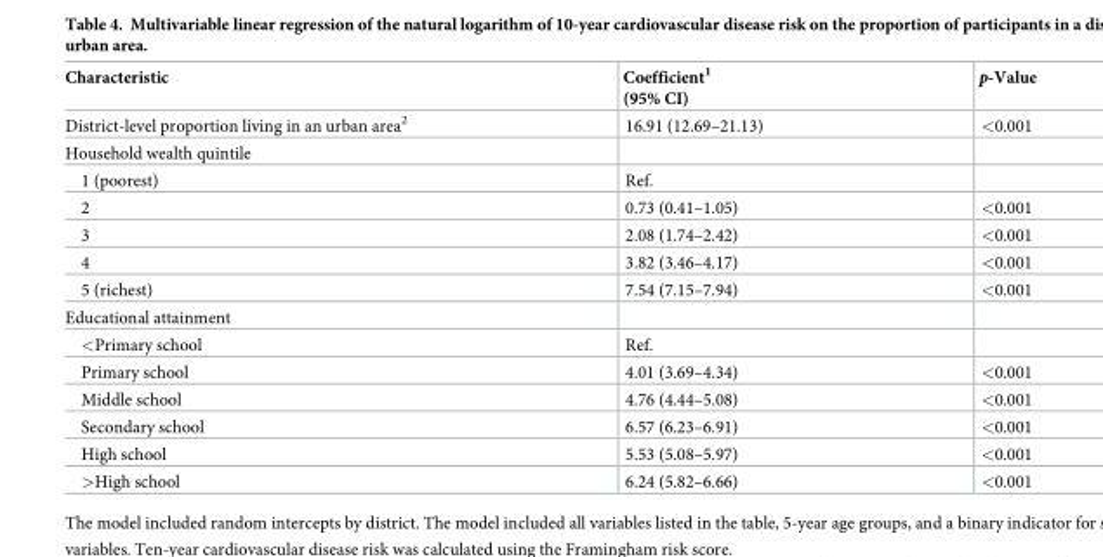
<table><thead><tr><td>Characteristic</td><td>Coefficient<sup>1</sup> (95% CI)</td><td>p-Value</td></tr></thead><tbody><tr><td>District-level proportion living in an urban area<sup>2</sup></td><td>16.91 (12.69–21.13)</td><td>&lt;0.001</td></tr><tr><td colspan="3">Household wealth quintile</td></tr><tr><td>1 (poorest)</td><td>Ref.</td><td></td></tr><tr><td>2</td><td>0.73 (0.41–1.05)</td><td>&lt;0.001</td></tr><tr><td>3</td><td>2.08 (1.74–2.42)</td><td>&lt;0.001</td></tr><tr><td>4</td><td>3.82 (3.46–4.17)</td><td>&lt;0.001</td></tr><tr><td>5 (richest)</td><td>7.54 (7.15–7.94)</td><td>&lt;0.001</td></tr><tr><td colspan="3">Educational attainment</td></tr><tr><td>&lt;Primary school</td><td>Ref.</td><td></td></tr><tr><td>Primary school</td><td>4.01 (3.69–4.34)</td><td>&lt;0.001</td></tr><tr><td>Middle school</td><td>4.76 (4.44–5.08)</td><td>&lt;0.001</td></tr><tr><td>Secondary school</td><td>6.57 (6.23–6.91)</td><td>&lt;0.001</td></tr><tr><td>High school</td><td>5.53 (5.08–5.97)</td><td>&lt;0.001</td></tr><tr><td>&gt;High school</td><td>6.24 (5.82–6.66)</td><td>&lt;0.001</td></tr></tbody></table>